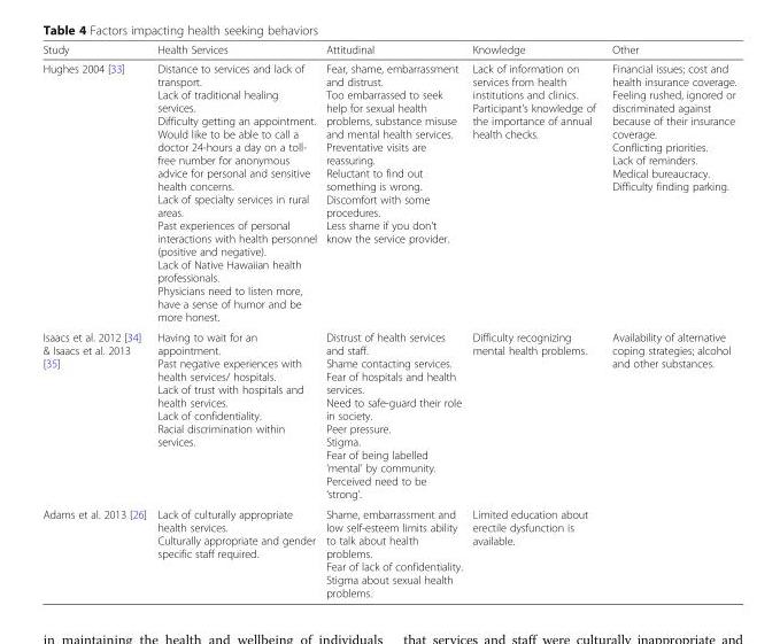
<table><thead><tr><td>Study</td><td>Health Services</td><td>Attitudinal</td><td>Knowledge</td><td>Other</td></tr></thead><tbody><tr><td>Hughes 2004 [33]</td><td>Distance to services and lack of transport. Lack of traditional healing services. Difficulty getting an appointment. Would like to be able to call a doctor 24-hours a day on a toll- free number for anonymous advice for personal and sensitive health concerns. Lack of specialty services in rural areas. Past experiences of personal interactions with health personnel (positive and negative). Lack of Native Hawaiian health professionals. Physicians need to listen more, have a sense of humor and be more honest.</td><td>Fear, shame, embarrassment and distrust. Too embarrassed to seek help for sexual health problems, substance misuse and mental health services. Preventative visits are reassuring. Reluctant to find out something is wrong. Discomfort with some procedures. Less shame if you don’t know the service provider.</td><td>Lack of information on services from health institutions and clinics. Participant’s knowledge of the importance of annual health checks.</td><td>Financial issues; cost and health insurance coverage. Feeling rushed, ignored or discriminated against because of their insurance coverage. Conflicting priorities. Lack of reminders. Medical bureaucracy. Difficulty finding parking.</td></tr><tr><td>Isaacs et al. 2012 [34] &amp; Isaacs et al. 2013 [35]</td><td>Having to wait for an appointment. Past negative experiences with health services/ hospitals. Lack of trust with hospitals and health services. Lack of confidentiality. Racial discrimination within services.</td><td>Distrust of health services and staff. Shame contacting services. Fear of hospitals and health services. Need to safe-guard their role in society. Peer pressure. Stigma. Fear of being labelled ‘mental’ by community. Perceived need to be ‘strong’.</td><td>Difficulty recognizing mental health problems.</td><td>Availability of alternative coping strategies; alcohol and other substances.</td></tr><tr><td>Adams et al. 2013 [26]</td><td>Lack of culturally appropriate health services. Culturally appropriate and gender specific staff required.</td><td>Shame, embarrassment and low self-esteem limits ability to talk about health problems. Fear of lack of confidentiality. Stigma about sexual health problems.</td><td>Limited education about erectile dysfunction is available.</td><td></td></tr></tbody></table>